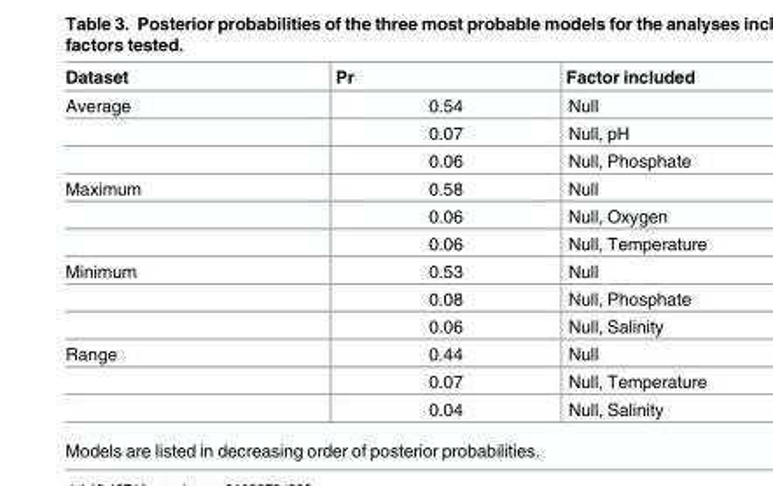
<table><thead><tr><td>Dataset</td><td>Pr</td><td>Factor included</td></tr></thead><tbody><tr><td rowspan="3">Average</td><td>0.54</td><td>Null</td></tr><tr><td>0.07</td><td>Null, pH</td></tr><tr><td>0.06</td><td>Null, Phosphate</td></tr><tr><td rowspan="3">Maximum</td><td>0.58</td><td>Null</td></tr><tr><td>0.06</td><td>Null, Oxygen</td></tr><tr><td>0.06</td><td>Null, Temperature</td></tr><tr><td rowspan="3">Minimum</td><td>0.53</td><td>Null</td></tr><tr><td>0.08</td><td>Null, Phosphate</td></tr><tr><td>0.06</td><td>Null, Salinity</td></tr><tr><td rowspan="3">Range</td><td>0.44</td><td>Null</td></tr><tr><td>0.07</td><td>Null, Temperature</td></tr><tr><td>0.04</td><td>Null, Salinity</td></tr></tbody></table>